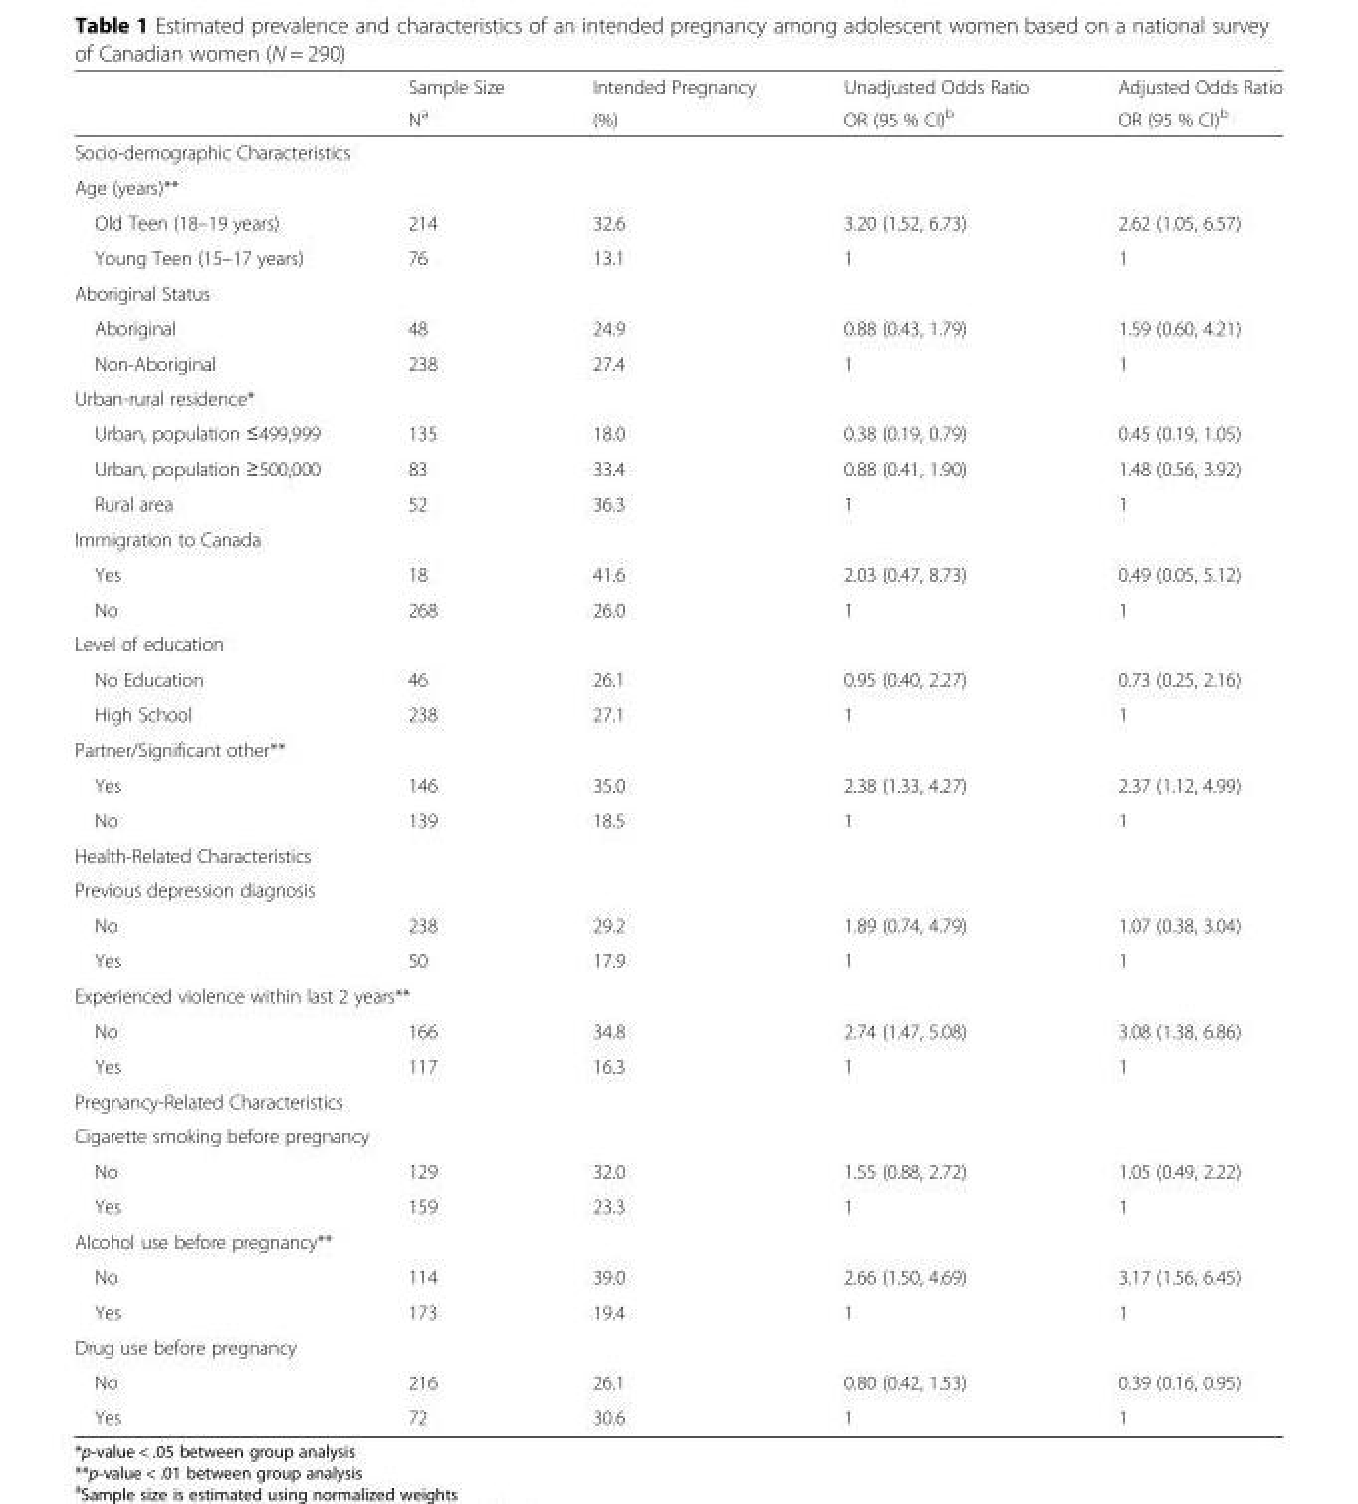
<table><thead><tr><td rowspan="2"></td><td rowspan="2">Sample Size N<sup>a</sup></td><td rowspan="2">Intended Pregnancy (%)</td><td rowspan="2">Unadjusted Odds Ratio OR (95 % CI)<sup>b</sup></td><td rowspan="2">Adjusted Odds Ratio OR (95 % CI)<sup>b</sup></td></tr><tr></tr></thead><tbody><tr><td colspan="5">Socio-demographic Characteristics</td></tr><tr><td colspan="5">Age (years)**</td></tr><tr><td>Old Teen (18–19 years)</td><td>214</td><td>32.6</td><td>3.20 (1.52, 6.73)</td><td>2.62 (1.05, 6.57)</td></tr><tr><td>Young Teen (15–17 years)</td><td>76</td><td>13.1</td><td>1</td><td>1</td></tr><tr><td colspan="5">Aboriginal Status</td></tr><tr><td>Aboriginal</td><td>48</td><td>24.9</td><td>0.88 (0.43, 1.79)</td><td>1.59 (0.60, 4.21)</td></tr><tr><td>Non-Aboriginal</td><td>238</td><td>27.4</td><td>1</td><td>1</td></tr><tr><td colspan="5">Urban-rural residence*</td></tr><tr><td>Urban, population ≤499,999</td><td>135</td><td>18.0</td><td>0.38 (0.19, 0.79)</td><td>0.45 (0.19, 1.05)</td></tr><tr><td>Urban, population ≥500,000</td><td>83</td><td>33.4</td><td>0.88 (0.41, 1.90)</td><td>1.48 (0.56, 3.92)</td></tr><tr><td>Rural area</td><td>52</td><td>36.3</td><td>1</td><td>1</td></tr><tr><td colspan="5">Immigration to Canada</td></tr><tr><td>Yes</td><td>18</td><td>41.6</td><td>2.03 (0.47, 8.73)</td><td>0.49 (0.05, 5.12)</td></tr><tr><td>No</td><td>268</td><td>26.0</td><td>1</td><td>1</td></tr><tr><td colspan="5">Level of education</td></tr><tr><td>No Education</td><td>46</td><td>26.1</td><td>0.95 (0.40, 2.27)</td><td>0.73 (0.25, 2.16)</td></tr><tr><td>High School</td><td>238</td><td>27.1</td><td>1</td><td>1</td></tr><tr><td colspan="5">Partner/Significant other**</td></tr><tr><td>Yes</td><td>146</td><td>35.0</td><td>2.38 (1.33, 4.27)</td><td>2.37 (1.12, 4.99)</td></tr><tr><td>No</td><td>139</td><td>18.5</td><td>1</td><td>1</td></tr><tr><td colspan="5">Health-Related Characteristics</td></tr><tr><td colspan="5">Previous depression diagnosis</td></tr><tr><td>No</td><td>238</td><td>29.2</td><td>1.89 (0.74, 4.79)</td><td>1.07 (0.38, 3.04)</td></tr><tr><td>Yes</td><td>50</td><td>17.9</td><td>1</td><td>1</td></tr><tr><td colspan="5">Experienced violence within last 2 years**</td></tr><tr><td>No</td><td>166</td><td>34.8</td><td>2.74 (1.47, 5.08)</td><td>3.08 (1.38, 6.86)</td></tr><tr><td>Yes</td><td>117</td><td>16.3</td><td>1</td><td>1</td></tr><tr><td colspan="5">Pregnancy-Related Characteristics</td></tr><tr><td colspan="5">Cigarette smoking before pregnancy</td></tr><tr><td>No</td><td>129</td><td>32.0</td><td>1.55 (0.88, 2.72)</td><td>1.05 (0.49, 2.22)</td></tr><tr><td>Yes</td><td>159</td><td>23.3</td><td>1</td><td>1</td></tr><tr><td colspan="5">Alcohol use before pregnancy**</td></tr><tr><td>No</td><td>114</td><td>39.0</td><td>2.66 (1.50, 4.69)</td><td>3.17 (1.56, 6.45)</td></tr><tr><td>Yes</td><td>173</td><td>19.4</td><td>1</td><td>1</td></tr><tr><td colspan="5">Drug use before pregnancy</td></tr><tr><td>No</td><td>216</td><td>26.1</td><td>0.80 (0.42, 1.53)</td><td>0.39 (0.16, 0.95)</td></tr><tr><td>Yes</td><td>72</td><td>30.6</td><td>1</td><td>1</td></tr></tbody></table>